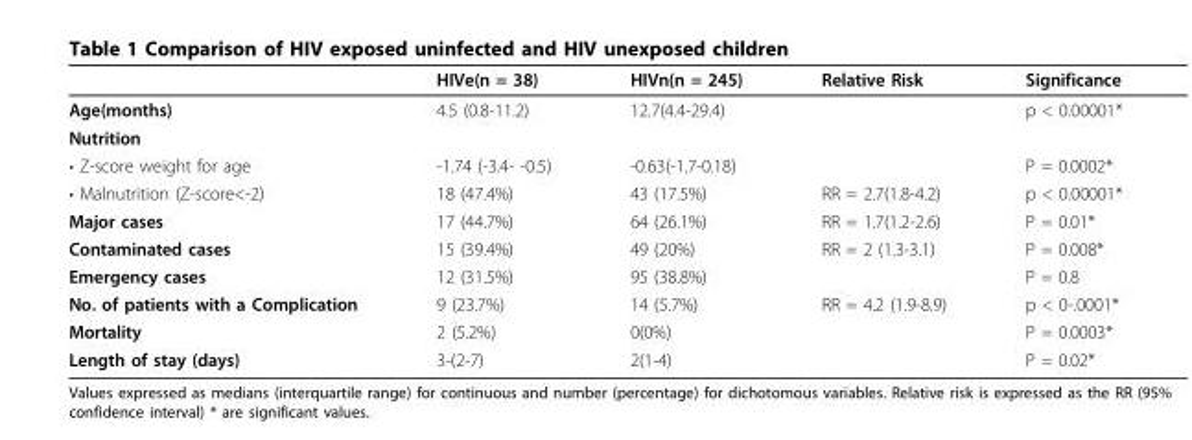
<table><thead><tr><td></td><td>HIVe(n = 38)</td><td>HIVn(n = 245)</td><td>Relative Risk</td><td>Significance</td></tr></thead><tbody><tr><td>Age(months)</td><td>4.5 (0.8-11.2)</td><td>12.7(4.4-29.4)</td><td></td><td>p &lt; 0.00001*</td></tr><tr><td colspan="5">Nutrition</td></tr><tr><td>• Z-score weight for age</td><td>-1.74 (-3.4- -0.5)</td><td>-0.63(-1.7-0.18)</td><td></td><td>P = 0.0002*</td></tr><tr><td>• Malnutrition (Z-score&lt;-2)</td><td>18 (47.4%)</td><td>43 (17.5%)</td><td>RR = 2.7(1.8-4.2)</td><td>p &lt; 0.00001*</td></tr><tr><td>Major cases</td><td>17 (44.7%)</td><td>64 (26.1%)</td><td>RR = 1.7(1.2-2.6)</td><td>P = 0.01*</td></tr><tr><td>Contaminated cases</td><td>15 (39.4%)</td><td>49 (20%)</td><td>RR = 2 (1.3-3.1)</td><td>P = 0.008*</td></tr><tr><td>Emergency cases</td><td>12 (31.5%)</td><td>95 (38.8%)</td><td></td><td>P = 0.8</td></tr><tr><td>No. of patients with a Complication</td><td>9 (23.7%)</td><td>14 (5.7%)</td><td>RR = 4.2 (1.9-8.9)</td><td>p &lt; 0-.0001*</td></tr><tr><td>Mortality</td><td>2 (5.2%)</td><td>0(0%)</td><td></td><td>P = 0.0003*</td></tr><tr><td>Length of stay (days)</td><td>3-(2-7)</td><td>2(1-4)</td><td></td><td>P = 0.02*</td></tr></tbody></table>